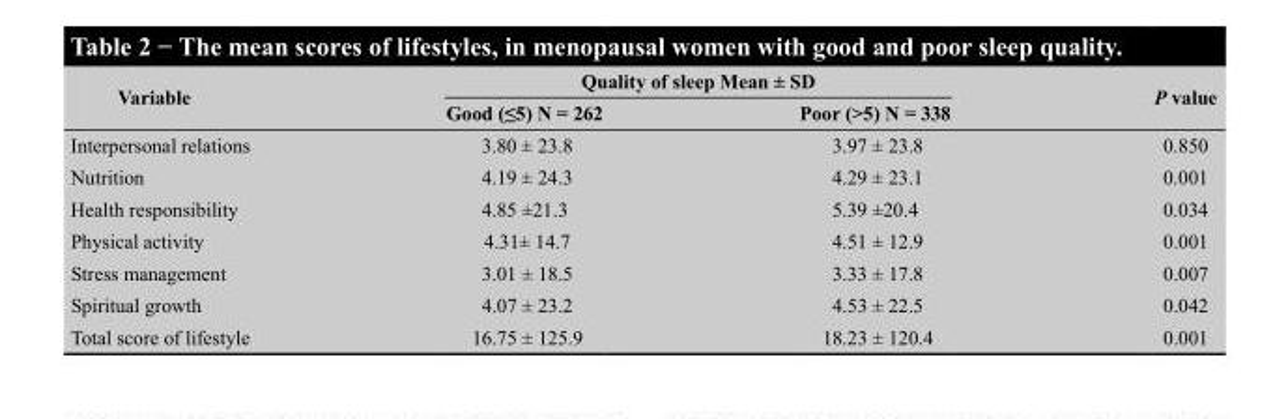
<table><thead><tr><td rowspan="2">Variable</td><td colspan="2">Quality of sleep Mean ± SD</td><td rowspan="2">P value</td></tr><tr><td>Good (≤5) N = 262</td><td>Poor (&gt;5) N = 338</td></tr></thead><tbody><tr><td>Interpersonal relations</td><td>3.80 ± 23.8</td><td>3.97 ± 23.8</td><td>0.850</td></tr><tr><td>Nutrition</td><td>4.19 ± 24.3</td><td>4.29 ± 23.1</td><td>0.001</td></tr><tr><td>Health responsibility</td><td>4.85 ±21.3</td><td>5.39 ±20.4</td><td>0.034</td></tr><tr><td>Physical activity</td><td>4.31± 14.7</td><td>4.51 ± 12.9</td><td>0.001</td></tr><tr><td>Stress management</td><td>3.01 ± 18.5</td><td>3.33 ± 17.8</td><td>0.007</td></tr><tr><td>Spiritual growth</td><td>4.07 ± 23.2</td><td>4.53 ± 22.5</td><td>0.042</td></tr><tr><td>Total score of lifestyle</td><td>16.75 ± 125.9</td><td>18.23 ± 120.4</td><td>0.001</td></tr></tbody></table>